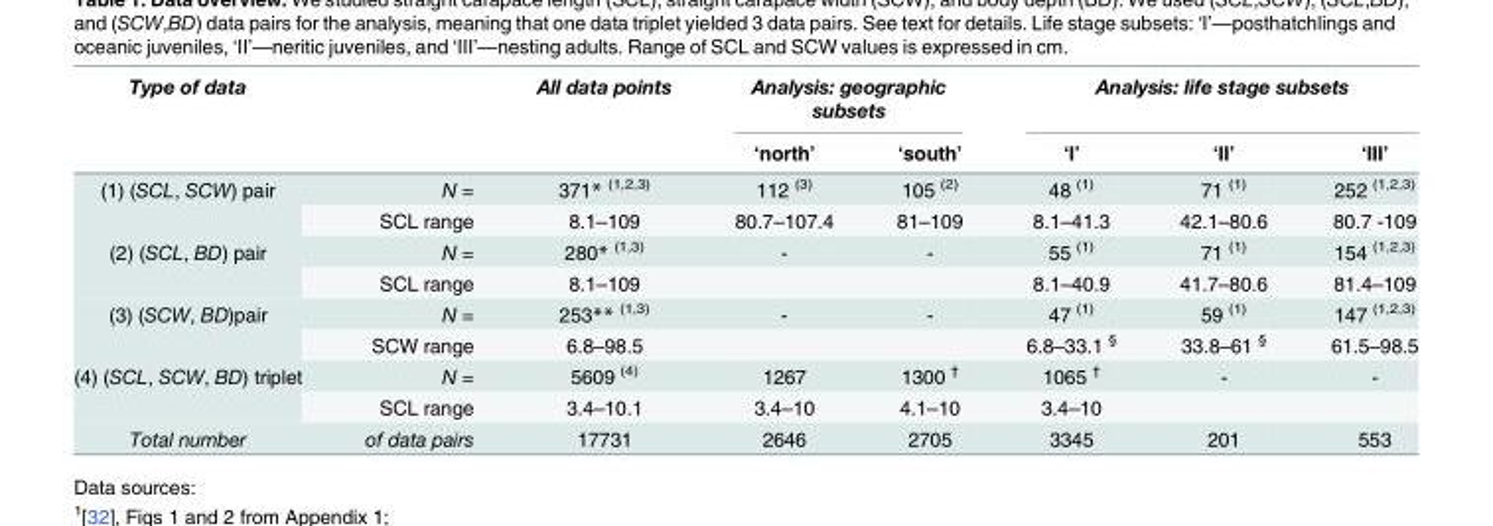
<table><thead><tr><td rowspan="2">Type of data</td><td rowspan="2"></td><td rowspan="2">All data points</td><td colspan="2">Analysis: geographic subsets</td><td colspan="3">Analysis: life stage subsets</td></tr><tr><td>‘north’</td><td>‘south’</td><td>‘I’</td><td>‘II’</td><td>‘III’</td></tr></thead><tbody><tr><td rowspan="2">(1) (SCL, SCW) pair</td><td>N =</td><td>371* <sup>(1,2,3)</sup></td><td>112 <sup>(3)</sup></td><td>105 <sup>(2)</sup></td><td>48 <sup>(1)</sup></td><td>71 <sup>(1)</sup></td><td>252 <sup>(1,2,3)</sup></td></tr><tr><td>SCL range</td><td>8.1–109</td><td>80.7–107.4</td><td>81–109</td><td>8.1–41.3</td><td>42.1–80.6</td><td>80.7 -109</td></tr><tr><td rowspan="2">(2) (SCL, BD) pair</td><td>N =</td><td>280* <sup>(1,3)</sup></td><td>-</td><td>-</td><td>55 <sup>(1)</sup></td><td>71 <sup>(1)</sup></td><td>154 <sup>(1,2,3)</sup></td></tr><tr><td>SCL range</td><td>8.1–109</td><td></td><td></td><td>8.1–40.9</td><td>41.7–80.6</td><td>81.4–109</td></tr><tr><td rowspan="2">(3) (SCW, BD)pair</td><td>N =</td><td>253** <sup>(1,3)</sup></td><td>-</td><td>-</td><td>47 <sup>(1)</sup></td><td>59 <sup>(1)</sup></td><td>147 <sup>(1,2,3)</sup></td></tr><tr><td>SCW range</td><td>6.8–98.5</td><td></td><td></td><td>6.8–33.1 <sup>§</sup></td><td>33.8–61 <sup>§</sup></td><td>61.5–98.5</td></tr><tr><td rowspan="2">(4) (SCL, SCW, BD) triplet</td><td>N =</td><td>5609 <sup>(4)</sup></td><td>1267</td><td>1300 <sup>†</sup></td><td>1065 <sup>†</sup></td><td>-</td><td>-</td></tr><tr><td>SCL range</td><td>3.4–10.1</td><td>3.4–10</td><td>4.1–10</td><td>3.4–10</td><td></td><td></td></tr><tr><td>Total number</td><td>of data pairs</td><td>17731</td><td>2646</td><td>2705</td><td>3345</td><td>201</td><td>553</td></tr></tbody></table>